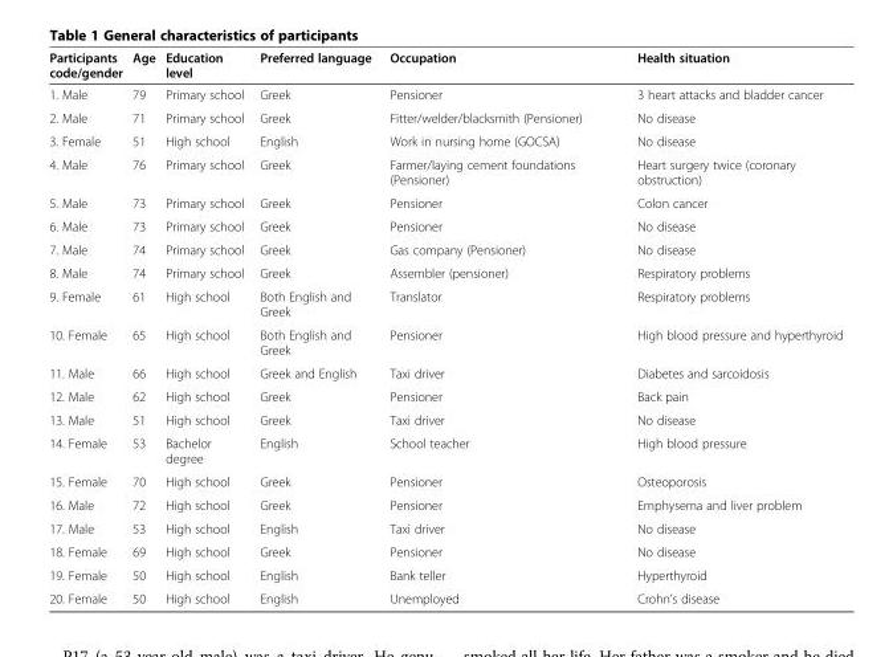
<table><thead><tr><td>Participants code/gender</td><td>Age</td><td>Education level</td><td>Preferred language</td><td>Occupation</td><td>Health situation</td></tr></thead><tbody><tr><td>1. Male</td><td>79</td><td>Primary school</td><td>Greek</td><td>Pensioner</td><td>3 heart attacks and bladder cancer</td></tr><tr><td>2. Male</td><td>71</td><td>Primary school</td><td>Greek</td><td>Fitter/welder/blacksmith (Pensioner)</td><td>No disease</td></tr><tr><td>3. Female</td><td>51</td><td>High school</td><td>English</td><td>Work in nursing home (GOCSA)</td><td>No disease</td></tr><tr><td>4. Male</td><td>76</td><td>Primary school</td><td>Greek</td><td>Farmer/laying cement foundations (Pensioner)</td><td>Heart surgery twice (coronary obstruction)</td></tr><tr><td>5. Male</td><td>73</td><td>Primary school</td><td>Greek</td><td>Pensioner</td><td>Colon cancer</td></tr><tr><td>6. Male</td><td>73</td><td>Primary school</td><td>Greek</td><td>Pensioner</td><td>No disease</td></tr><tr><td>7. Male</td><td>74</td><td>Primary school</td><td>Greek</td><td>Gas company (Pensioner)</td><td>No disease</td></tr><tr><td>8. Male</td><td>74</td><td>Primary school</td><td>Greek</td><td>Assembler (pensioner)</td><td>Respiratory problems</td></tr><tr><td>9. Female</td><td>61</td><td>High school</td><td>Both English and Greek</td><td>Translator</td><td>Respiratory problems</td></tr><tr><td>10. Female</td><td>65</td><td>High school</td><td>Both English and Greek</td><td>Pensioner</td><td>High blood pressure and hyperthyroid</td></tr><tr><td>11. Male</td><td>66</td><td>High school</td><td>Greek and English</td><td>Taxi driver</td><td>Diabetes and sarcoidosis</td></tr><tr><td>12. Male</td><td>62</td><td>High school</td><td>Greek</td><td>Pensioner</td><td>Back pain</td></tr><tr><td>13. Male</td><td>51</td><td>High school</td><td>Greek</td><td>Taxi driver</td><td>No disease</td></tr><tr><td>14. Female</td><td>53</td><td>Bachelor degree</td><td>English</td><td>School teacher</td><td>High blood pressure</td></tr><tr><td>15. Female</td><td>70</td><td>High school</td><td>Greek</td><td>Pensioner</td><td>Osteoporosis</td></tr><tr><td>16. Male</td><td>72</td><td>High school</td><td>Greek</td><td>Pensioner</td><td>Emphysema and liver problem</td></tr><tr><td>17. Male</td><td>53</td><td>High school</td><td>English</td><td>Taxi driver</td><td>No disease</td></tr><tr><td>18. Female</td><td>69</td><td>High school</td><td>Greek</td><td>Pensioner</td><td>No disease</td></tr><tr><td>19. Female</td><td>50</td><td>High school</td><td>English</td><td>Bank teller</td><td>Hyperthyroid</td></tr><tr><td>20. Female</td><td>50</td><td>High school</td><td>English</td><td>Unemployed</td><td>Crohn’s disease</td></tr></tbody></table>